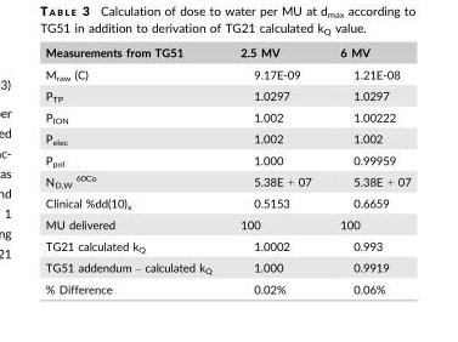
<table><thead><tr><td>Measurements from TG51</td><td>2.5 MV</td><td>6 MV</td></tr></thead><tbody><tr><td>M<sub>raw</sub> (C)</td><td>9.17E-09</td><td>1.21E-08</td></tr><tr><td>P<sub>TP</sub></td><td>1.0297</td><td>1.0297</td></tr><tr><td>P<sub>ION</sub></td><td>1.002</td><td>1.00222</td></tr><tr><td>P<sub>elec</sub></td><td>1.002</td><td>1.002</td></tr><tr><td>P<sub>pol</sub></td><td>1.000</td><td>0.99959</td></tr><tr><td>N<sub>D,W</sub> <sup>60Co</sup></td><td>5.38E + 07</td><td>5.38E + 07</td></tr><tr><td>Clinical %dd(10)<sub>x</sub></td><td>0.5153</td><td>0.6659</td></tr><tr><td>MU delivered</td><td>100</td><td>100</td></tr><tr><td>TG21 calculated k<sub>Q</sub></td><td>1.0002</td><td>0.993</td></tr><tr><td>TG51 addendum – calculated k<sub>Q</sub></td><td>1.000</td><td>0.9919</td></tr><tr><td>% Difference</td><td>0.02%</td><td>0.06%</td></tr></tbody></table>